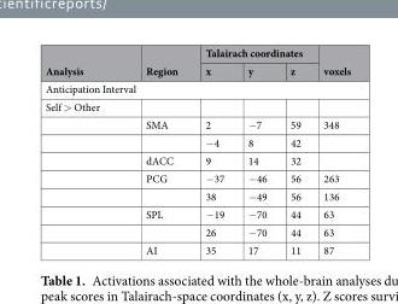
<table><thead><tr><td rowspan="2">Analysis</td><td rowspan="2">Region</td><td colspan="3">Talairach coordinates</td><td rowspan="2">voxels</td></tr><tr><td>x</td><td>y</td><td>z</td></tr></thead><tbody><tr><td colspan="6">Anticipation Interval</td></tr><tr><td colspan="6">Self &gt; Other</td></tr><tr><td></td><td>SMA</td><td>2</td><td>−7</td><td>59</td><td>348</td></tr><tr><td></td><td></td><td>−4</td><td>8</td><td>42</td><td></td></tr><tr><td></td><td>dACC</td><td>9</td><td>14</td><td>32</td><td></td></tr><tr><td></td><td>PCG</td><td>−37</td><td>−46</td><td>56</td><td>263</td></tr><tr><td></td><td></td><td>38</td><td>−49</td><td>56</td><td>136</td></tr><tr><td></td><td>SPL</td><td>−19</td><td>−70</td><td>44</td><td>63</td></tr><tr><td></td><td></td><td>26</td><td>−70</td><td>44</td><td>63</td></tr><tr><td></td><td>AI</td><td>35</td><td>17</td><td>11</td><td>87</td></tr></tbody></table>